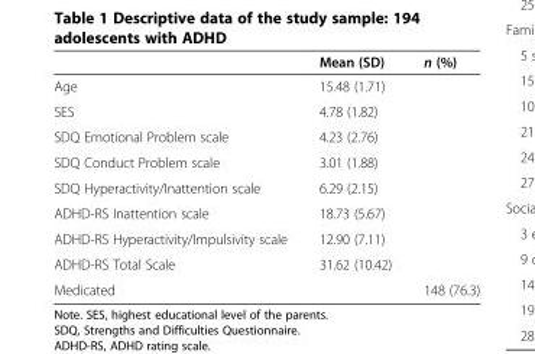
<table><thead><tr><td></td><td>Mean (SD)</td><td>n (%)</td></tr></thead><tbody><tr><td>Age</td><td>15.48 (1.71)</td><td></td></tr><tr><td>SES</td><td>4.78 (1.82)</td><td></td></tr><tr><td>SDQ Emotional Problem scale</td><td>4.23 (2.76)</td><td></td></tr><tr><td>SDQ Conduct Problem scale</td><td>3.01 (1.88)</td><td></td></tr><tr><td>SDQ Hyperactivity/Inattention scale</td><td>6.29 (2.15)</td><td></td></tr><tr><td>ADHD-RS Inattention scale</td><td>18.73 (5.67)</td><td></td></tr><tr><td>ADHD-RS Hyperactivity/Impulsivity scale</td><td>12.90 (7.11)</td><td></td></tr><tr><td>ADHD-RS Total Scale</td><td>31.62 (10.42)</td><td></td></tr><tr><td>Medicated</td><td></td><td>148 (76.3)</td></tr></tbody></table>